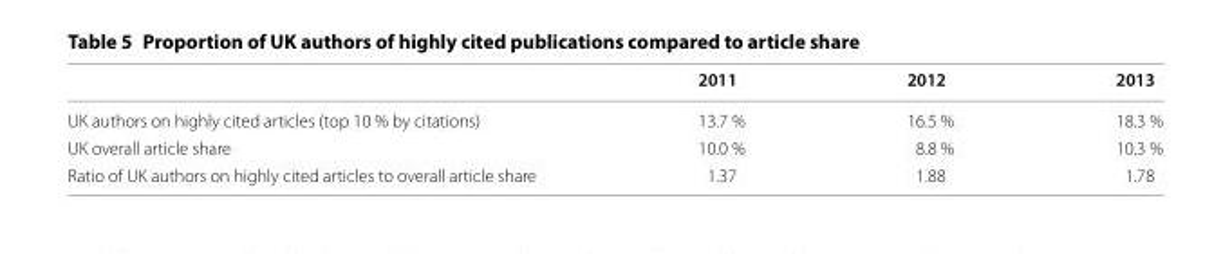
<table><thead><tr><td></td><td>2011</td><td>2012</td><td>2013</td></tr></thead><tbody><tr><td>UK authors on highly cited articles (top 10 % by citations)</td><td>13.7 %</td><td>16.5 %</td><td>18.3 %</td></tr><tr><td>UK overall article share</td><td>10.0 %</td><td>8.8 %</td><td>10.3 %</td></tr><tr><td>Ratio of UK authors on highly cited articles to overall article share</td><td>1.37</td><td>1.88</td><td>1.78</td></tr></tbody></table>